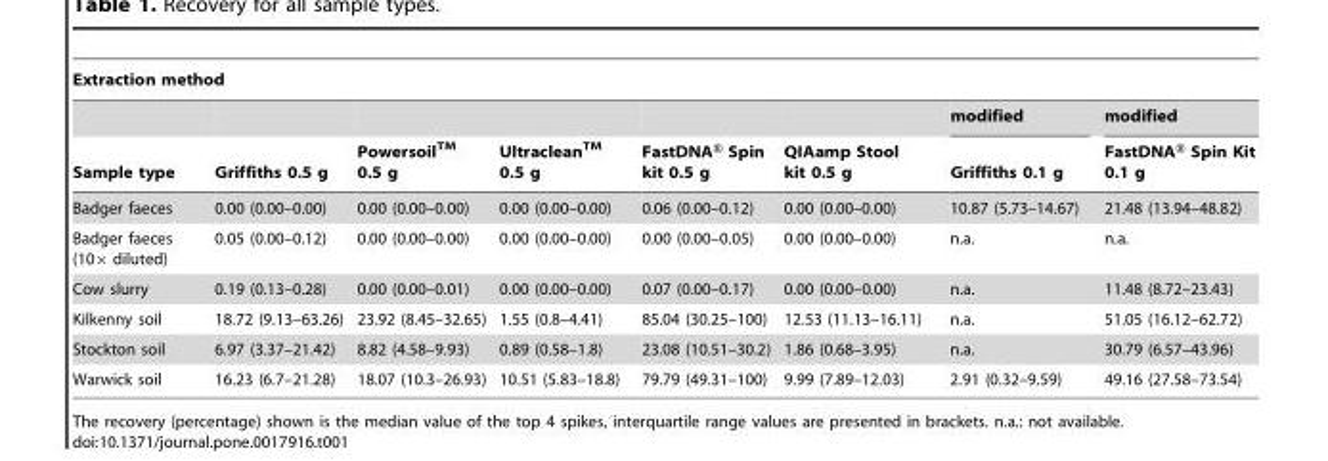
<table><thead><tr><td colspan="8">Extraction method</td></tr><tr><td rowspan="2">Sample type</td><td rowspan="2">Griffiths 0.5 g</td><td rowspan="2">PowersoilTM 0.5 g</td><td rowspan="2">UltracleanTM 0.5 g</td><td rowspan="2">FastDNA® Spin kit 0.5 g</td><td rowspan="2">QIAamp Stool kit 0.5 g</td><td rowspan="2">modified Griffiths 0.1 g</td><td rowspan="2">modified FastDNA® Spin Kit 0.1 g</td></tr><tr></tr></thead><tbody><tr><td>Badger faeces</td><td>0.00 (0.00–0.00)</td><td>0.00 (0.00–0.00)</td><td>0.00 (0.00–0.00)</td><td>0.06 (0.00–0.12)</td><td>0.00 (0.00–0.00)</td><td>10.87 (5.73–14.67)</td><td>21.48 (13.94–48.82)</td></tr><tr><td>Badger faeces (10× diluted)</td><td>0.05 (0.00–0.12)</td><td>0.00 (0.00–0.00)</td><td>0.00 (0.00–0.00)</td><td>0.00 (0.00–0.05)</td><td>0.00 (0.00–0.00)</td><td>n.a.</td><td>n.a.</td></tr><tr><td>Cow slurry</td><td>0.19 (0.13–0.28)</td><td>0.00 (0.00–0.01)</td><td>0.00 (0.00–0.00)</td><td>0.07 (0.00–0.17)</td><td>0.00 (0.00–0.00)</td><td>n.a.</td><td>11.48 (8.72–23.43)</td></tr><tr><td>Kilkenny soil</td><td>18.72 (9.13–63.26)</td><td>23.92 (8.45–32.65)</td><td>1.55 (0.8–4.41)</td><td>85.04 (30.25–100)</td><td>12.53 (11.13–16.11)</td><td>n.a.</td><td>51.05 (16.12–62.72)</td></tr><tr><td>Stockton soil</td><td>6.97 (3.37–21.42)</td><td>8.82 (4.58–9.93)</td><td>0.89 (0.58–1.8)</td><td>23.08 (10.51–30.2)</td><td>1.86 (0.68–3.95)</td><td>n.a.</td><td>30.79 (6.57–43.96)</td></tr><tr><td>Warwick soil</td><td>16.23 (6.7–21.28)</td><td>18.07 (10.3–26.93)</td><td>10.51 (5.83–18.8)</td><td>79.79 (49.31–100)</td><td>9.99 (7.89–12.03)</td><td>2.91 (0.32–9.59)</td><td>49.16 (27.58–73.54)</td></tr></tbody></table>